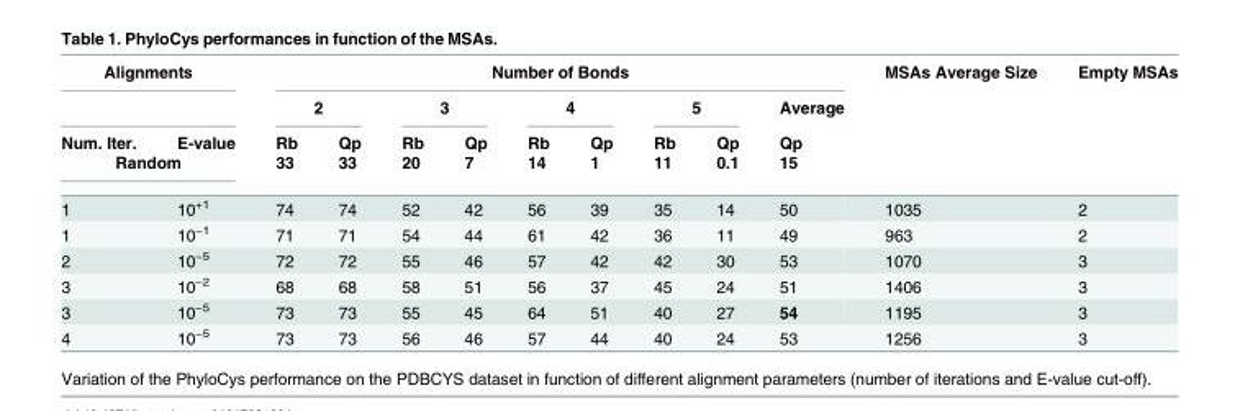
<table><thead><tr><td colspan="2">Alignments</td><td colspan="9">Number of Bonds</td><td rowspan="4">MSAs Average Size</td><td rowspan="4">Empty MSAs</td></tr><tr><td rowspan="2">Num. Iter.</td><td rowspan="2">E-value</td><td colspan="2">2</td><td colspan="2">3</td><td colspan="2">4</td><td colspan="2">5</td><td rowspan="3">Average Qp 15</td></tr><tr><td rowspan="2">Rb 33</td><td rowspan="2">Qp 33</td><td rowspan="2">Rb 20</td><td rowspan="2">Qp 7</td><td rowspan="2">Rb 14</td><td rowspan="2">Qp 1</td><td rowspan="2">Rb 11</td><td rowspan="2">Qp 0.1</td></tr><tr><td colspan="2">Random</td></tr></thead><tbody><tr><td>1</td><td>10<sup>+1</sup></td><td>74</td><td>74</td><td>52</td><td>42</td><td>56</td><td>39</td><td>35</td><td>14</td><td>50</td><td>1035</td><td>2</td></tr><tr><td>1</td><td>10<sup>−1</sup></td><td>71</td><td>71</td><td>54</td><td>44</td><td>61</td><td>42</td><td>36</td><td>11</td><td>49</td><td>963</td><td>2</td></tr><tr><td>2</td><td>10<sup>−5</sup></td><td>72</td><td>72</td><td>55</td><td>46</td><td>57</td><td>42</td><td>42</td><td>30</td><td>53</td><td>1070</td><td>3</td></tr><tr><td>3</td><td>10<sup>−2</sup></td><td>68</td><td>68</td><td>58</td><td>51</td><td>56</td><td>37</td><td>45</td><td>24</td><td>51</td><td>1406</td><td>3</td></tr><tr><td>3</td><td>10<sup>−5</sup></td><td>73</td><td>73</td><td>55</td><td>45</td><td>64</td><td>51</td><td>40</td><td>27</td><td>54</td><td>1195</td><td>3</td></tr><tr><td>4</td><td>10<sup>−5</sup></td><td>73</td><td>73</td><td>56</td><td>46</td><td>57</td><td>44</td><td>40</td><td>24</td><td>53</td><td>1256</td><td>3</td></tr></tbody></table>